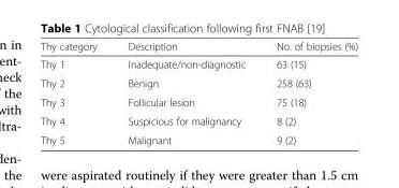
<table><thead><tr><td>Thy category</td><td>Description</td><td>No. of biopsies (%)</td></tr></thead><tbody><tr><td>Thy 1</td><td>Inadequate/non-diagnostic</td><td>63 (15)</td></tr><tr><td>Thy 2</td><td>Benign</td><td>258 (63)</td></tr><tr><td>Thy 3</td><td>Follicular lesion</td><td>75 (18)</td></tr><tr><td>Thy 4</td><td>Suspicious for malignancy</td><td>8 (2)</td></tr><tr><td>Thy 5</td><td>Malignant</td><td>9 (2)</td></tr></tbody></table>